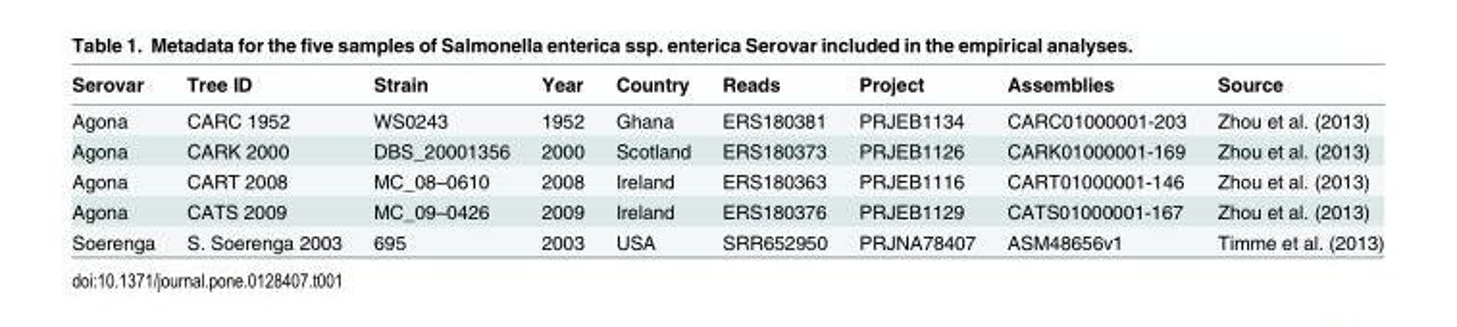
<table><thead><tr><td>Serovar</td><td>Tree ID</td><td>Strain</td><td>Year</td><td>Country</td><td>Reads</td><td>Project</td><td>Assemblies</td><td>Source</td></tr></thead><tbody><tr><td>Agona</td><td>CARC 1952</td><td>WS0243</td><td>1952</td><td>Ghana</td><td>ERS180381</td><td>PRJEB1134</td><td>CARC01000001-203</td><td>Zhou et al. (2013)</td></tr><tr><td>Agona</td><td>CARK 2000</td><td>DBS_20001356</td><td>2000</td><td>Scotland</td><td>ERS180373</td><td>PRJEB1126</td><td>CARK01000001-169</td><td>Zhou et al. (2013)</td></tr><tr><td>Agona</td><td>CART 2008</td><td>MC_08–0610</td><td>2008</td><td>Ireland</td><td>ERS180363</td><td>PRJEB1116</td><td>CART01000001-146</td><td>Zhou et al. (2013)</td></tr><tr><td>Agona</td><td>CATS 2009</td><td>MC_09–0426</td><td>2009</td><td>Ireland</td><td>ERS180376</td><td>PRJEB1129</td><td>CATS01000001-167</td><td>Zhou et al. (2013)</td></tr><tr><td>Soerenga</td><td>S. Soerenga 2003</td><td>695</td><td>2003</td><td>USA</td><td>SRR652950</td><td>PRJNA78407</td><td>ASM48656v1</td><td>Timme et al. (2013)</td></tr></tbody></table>